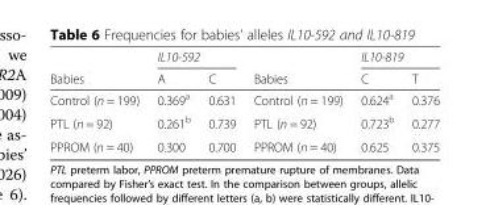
<table><thead><tr><td rowspan="2">Babies</td><td colspan="2">IL10-592</td><td rowspan="2">Babies</td><td colspan="2">IL10-819</td></tr><tr><td>A</td><td>C</td><td>C</td><td>T</td></tr></thead><tbody><tr><td>Control (n = 199)</td><td>0.369<sup>a</sup></td><td>0.631</td><td>Control (n = 199)</td><td>0.624<sup>a</sup></td><td>0.376</td></tr><tr><td>PTL (n = 92)</td><td>0.261<sup>b</sup></td><td>0.739</td><td>PTL (n = 92)</td><td>0.723<sup>b</sup></td><td>0.277</td></tr><tr><td>PPROM (n = 40)</td><td>0.300</td><td>0.700</td><td>PPROM (n = 40)</td><td>0.625</td><td>0.375</td></tr></tbody></table>